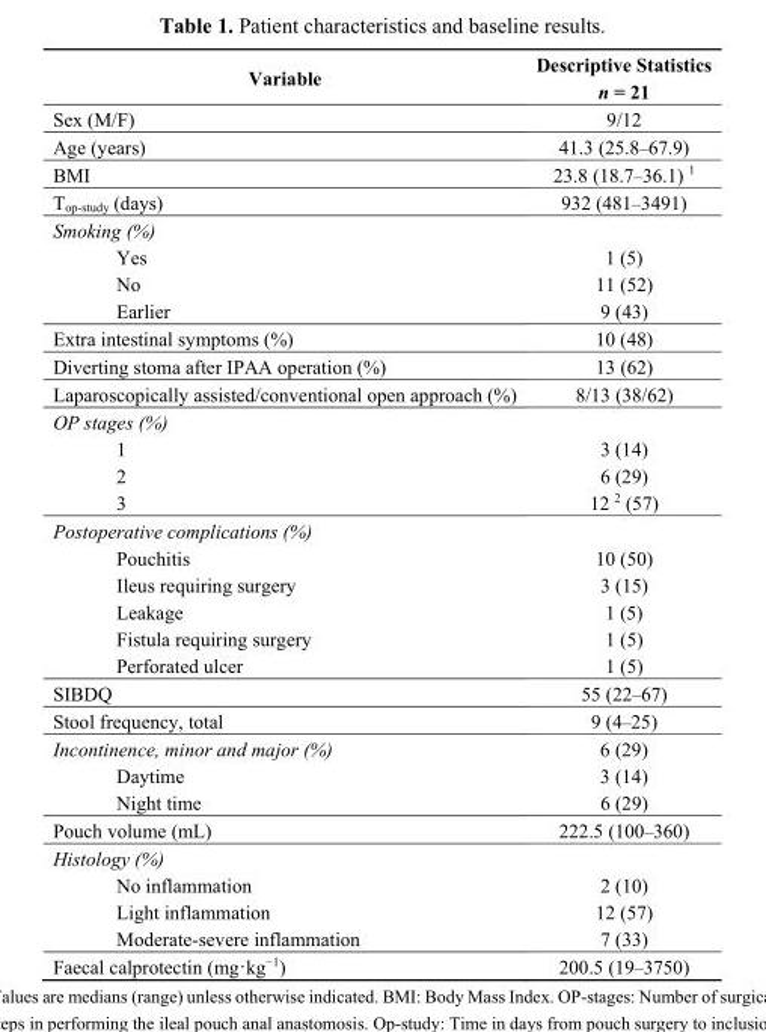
<table><thead><tr><td>Variable</td><td>Descriptive Statistics n = 21</td></tr></thead><tbody><tr><td>Sex (M/F)</td><td>9/12</td></tr><tr><td>Age (years)</td><td>41.3 (25.8–67.9)</td></tr><tr><td>BMI</td><td>23.8 (18.7–36.1) <sup>1</sup></td></tr><tr><td>T<sub>op-study</sub> (days)</td><td>932 (481–3491)</td></tr><tr><td colspan="2">Smoking (%)</td></tr><tr><td>Yes</td><td>1 (5)</td></tr><tr><td>No</td><td>11 (52)</td></tr><tr><td>Earlier</td><td>9 (43)</td></tr><tr><td>Extra intestinal symptoms (%)</td><td>10 (48)</td></tr><tr><td>Diverting stoma after IPAA operation (%)</td><td>13 (62)</td></tr><tr><td>Laparoscopically assisted/conventional open approach (%)</td><td>8/13 (38/62)</td></tr><tr><td colspan="2">OP stages (%)</td></tr><tr><td>1</td><td>3 (14)</td></tr><tr><td>2</td><td>6 (29)</td></tr><tr><td>3</td><td>12 <sup>2</sup> (57)</td></tr><tr><td colspan="2">Postoperative complications (%)</td></tr><tr><td>Pouchitis</td><td>10 (50)</td></tr><tr><td>Ileus requiring surgery</td><td>3 (15)</td></tr><tr><td>Leakage</td><td>1 (5)</td></tr><tr><td>Fistula requiring surgery</td><td>1 (5)</td></tr><tr><td>Perforated ulcer</td><td>1 (5)</td></tr><tr><td>SIBDQ</td><td>55 (22–67)</td></tr><tr><td>Stool frequency, total</td><td>9 (4–25)</td></tr><tr><td>Incontinence, minor and major (%)</td><td>6 (29)</td></tr><tr><td>Daytime</td><td>3 (14)</td></tr><tr><td>Night time</td><td>6 (29)</td></tr><tr><td>Pouch volume (mL)</td><td>222.5 (100–360)</td></tr><tr><td colspan="2">Histology (%)</td></tr><tr><td>No inflammation</td><td>2 (10)</td></tr><tr><td>Light inflammation</td><td>12 (57)</td></tr><tr><td>Moderate-severe inflammation</td><td>7 (33)</td></tr><tr><td>Faecal calprotectin (mg·kg<sup>−1</sup>)</td><td>200.5 (19–3750)</td></tr></tbody></table>